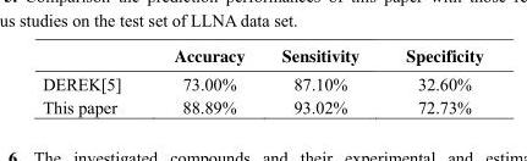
<table><thead><tr><td></td><td>Accuracy</td><td>Sensitivity</td><td>Specificity</td></tr></thead><tbody><tr><td>DEREK[5]</td><td>73.00%</td><td>87.10%</td><td>32.60%</td></tr><tr><td>This paper</td><td>88.89%</td><td>93.02%</td><td>72.73%</td></tr></tbody></table>